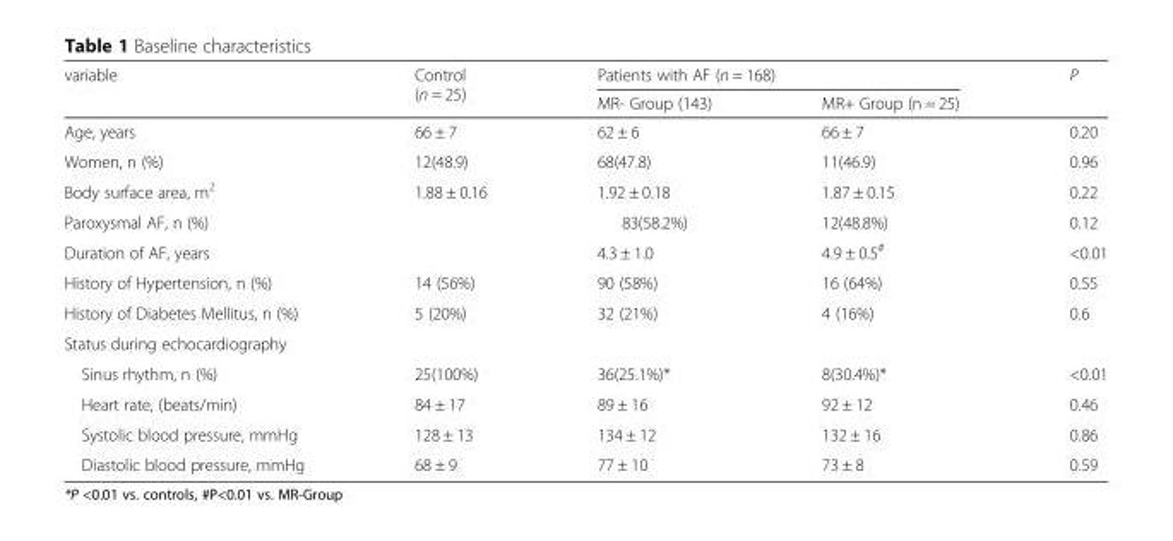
<table><thead><tr><td rowspan="2">variable</td><td rowspan="2">Control (n = 25)</td><td colspan="2">Patients with AF (n = 168)</td><td rowspan="2">P</td></tr><tr><td>MR- Group (143)</td><td>MR+ Group (n = 25)</td></tr></thead><tbody><tr><td>Age, years</td><td>66 ± 7</td><td>62 ± 6</td><td>66 ± 7</td><td>0.20</td></tr><tr><td>Women, n (%)</td><td>12(48.9)</td><td>68(47.8)</td><td>11(46.9)</td><td>0.96</td></tr><tr><td>Body surface area, m<sup>2</sup></td><td>1.88 ± 0.16</td><td>1.92 ± 0.18</td><td>1.87 ± 0.15</td><td>0.22</td></tr><tr><td>Paroxysmal AF, n (%)</td><td rowspan="2"></td><td>83(58.2%)</td><td>12(48.8%)</td><td>0.12</td></tr><tr><td>Duration of AF, years</td><td>4.3 ± 1.0</td><td>4.9 ± 0.5<sup>#</sup></td><td>&lt;0.01</td></tr><tr><td>History of Hypertension, n (%)</td><td>14 (56%)</td><td>90 (58%)</td><td>16 (64%)</td><td>0.55</td></tr><tr><td>History of Diabetes Mellitus, n (%)</td><td>5 (20%)</td><td>32 (21%)</td><td>4 (16%)</td><td>0.6</td></tr><tr><td colspan="5">Status during echocardiography</td></tr><tr><td>Sinus rhythm, n (%)</td><td>25(100%)</td><td>36(25.1%)*</td><td>8(30.4%)*</td><td>&lt;0.01</td></tr><tr><td>Heart rate, (beats/min)</td><td>84 ± 17</td><td>89 ± 16</td><td>92 ± 12</td><td>0.46</td></tr><tr><td>Systolic blood pressure, mmHg</td><td>128 ± 13</td><td>134 ± 12</td><td>132 ± 16</td><td>0.86</td></tr><tr><td>Diastolic blood pressure, mmHg</td><td>68 ± 9</td><td>77 ± 10</td><td>73 ± 8</td><td>0.59</td></tr></tbody></table>